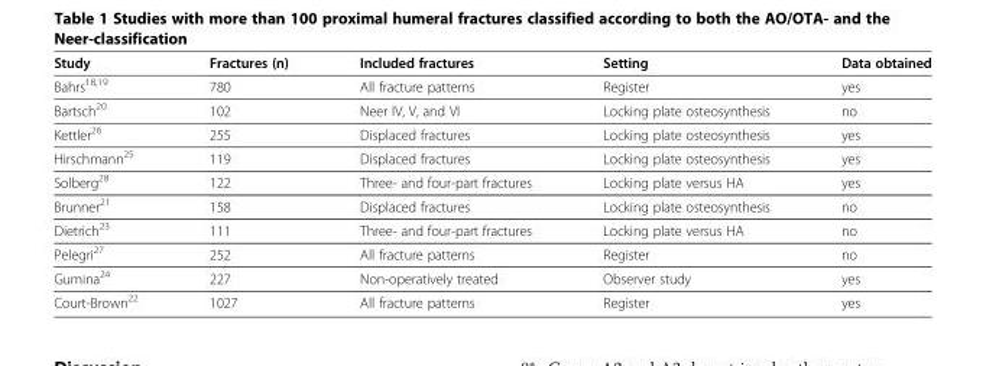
<table><thead><tr><td>Study</td><td>Fractures (n)</td><td>Included fractures</td><td>Setting</td><td>Data obtained</td></tr></thead><tbody><tr><td>Bahrs<sup>18,19</sup></td><td>780</td><td>All fracture patterns</td><td>Register</td><td>yes</td></tr><tr><td>Bartsch<sup>20</sup></td><td>102</td><td>Neer IV, V, and VI</td><td>Locking plate osteosynthesis</td><td>no</td></tr><tr><td>Kettler<sup>26</sup></td><td>255</td><td>Displaced fractures</td><td>Locking plate osteosynthesis</td><td>yes</td></tr><tr><td>Hirschmann<sup>25</sup></td><td>119</td><td>Displaced fractures</td><td>Locking plate osteosynthesis</td><td>yes</td></tr><tr><td>Solberg<sup>28</sup></td><td>122</td><td>Three- and four-part fractures</td><td>Locking plate versus HA</td><td>yes</td></tr><tr><td>Brunner<sup>21</sup></td><td>158</td><td>Displaced fractures</td><td>Locking plate osteosynthesis</td><td>no</td></tr><tr><td>Dietrich<sup>23</sup></td><td>111</td><td>Three- and four-part fractures</td><td>Locking plate versus HA</td><td>no</td></tr><tr><td>Pelegri<sup>27</sup></td><td>252</td><td>All fracture patterns</td><td>Register</td><td>no</td></tr><tr><td>Gumina<sup>24</sup></td><td>227</td><td>Non-operatively treated</td><td>Observer study</td><td>yes</td></tr><tr><td>Court-Brown<sup>22</sup></td><td>1027</td><td>All fracture patterns</td><td>Register</td><td>yes</td></tr></tbody></table>